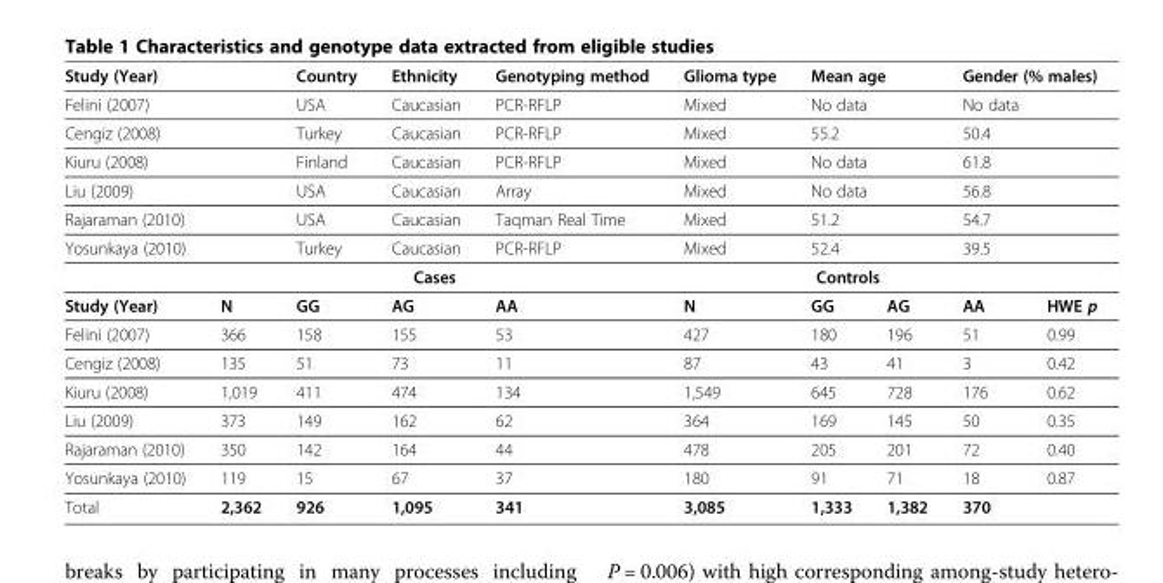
<table><thead><tr><td colspan="2">Study (Year)</td><td>Country</td><td>Ethnicity</td><td>Genotyping method</td><td>Glioma type</td><td colspan="2">Mean age</td><td colspan="2">Gender (% males)</td></tr></thead><tbody><tr><td colspan="2">Felini (2007)</td><td>USA</td><td>Caucasian</td><td>PCR-RFLP</td><td>Mixed</td><td colspan="2">No data</td><td colspan="2">No data</td></tr><tr><td colspan="2">Cengiz (2008)</td><td>Turkey</td><td>Caucasian</td><td>PCR-RFLP</td><td>Mixed</td><td colspan="2">55.2</td><td colspan="2">50.4</td></tr><tr><td colspan="2">Kiuru (2008)</td><td>Finland</td><td>Caucasian</td><td>PCR-RFLP</td><td>Mixed</td><td colspan="2">No data</td><td colspan="2">61.8</td></tr><tr><td colspan="2">Liu (2009)</td><td>USA</td><td>Caucasian</td><td>Array</td><td>Mixed</td><td colspan="2">No data</td><td colspan="2">56.8</td></tr><tr><td colspan="2">Rajaraman (2010)</td><td>USA</td><td>Caucasian</td><td>Taqman Real Time</td><td>Mixed</td><td colspan="2">51.2</td><td colspan="2">54.7</td></tr><tr><td colspan="2">Yosunkaya (2010)</td><td>Turkey</td><td>Caucasian</td><td>PCR-RFLP</td><td>Mixed</td><td colspan="2">52.4</td><td colspan="2">39.5</td></tr><tr><td></td><td colspan="4">Cases</td><td colspan="4">Controls</td><td></td></tr><tr><td>Study (Year)</td><td>N</td><td>GG</td><td>AG</td><td>AA</td><td>N</td><td>GG</td><td>AG</td><td>AA</td><td>HWE p</td></tr><tr><td>Felini (2007)</td><td>366</td><td>158</td><td>155</td><td>53</td><td>427</td><td>180</td><td>196</td><td>51</td><td>0.99</td></tr><tr><td>Cengiz (2008)</td><td>135</td><td>51</td><td>73</td><td>11</td><td>87</td><td>43</td><td>41</td><td>3</td><td>0.42</td></tr><tr><td>Kiuru (2008)</td><td>1,019</td><td>411</td><td>474</td><td>134</td><td>1,549</td><td>645</td><td>728</td><td>176</td><td>0.62</td></tr><tr><td>Liu (2009)</td><td>373</td><td>149</td><td>162</td><td>62</td><td>364</td><td>169</td><td>145</td><td>50</td><td>0.35</td></tr><tr><td>Rajaraman (2010)</td><td>350</td><td>142</td><td>164</td><td>44</td><td>478</td><td>205</td><td>201</td><td>72</td><td>0.40</td></tr><tr><td>Yosunkaya (2010)</td><td>119</td><td>15</td><td>67</td><td>37</td><td>180</td><td>91</td><td>71</td><td>18</td><td>0.87</td></tr><tr><td>Total</td><td>2,362</td><td>926</td><td>1,095</td><td>341</td><td>3,085</td><td>1,333</td><td>1,382</td><td>370</td><td></td></tr></tbody></table>